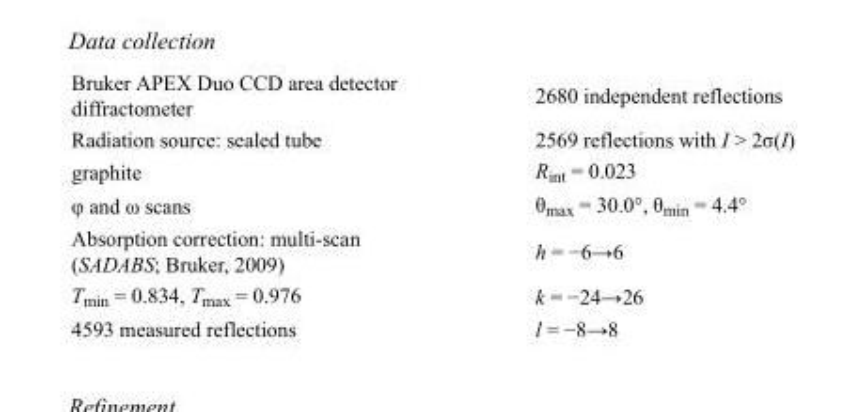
<table><tbody><tr><td>Bruker APEX Duo CCD area detector diffractometer</td><td>2680 independent reflections</td></tr><tr><td>Radiation source: sealed tube</td><td>2569 reflections with I &gt; 2σ(I)</td></tr><tr><td>graphite</td><td>R<sub>int</sub> = 0.023</td></tr><tr><td>φ and ω scans</td><td>θ<sub>max</sub> = 30.0°, θ<sub>min</sub> = 4.4°</td></tr><tr><td>Absorption correction: multi-scan (SADABS; Bruker, 2009)</td><td>h = −6→6</td></tr><tr><td>T<sub>min</sub> = 0.834, T<sub>max</sub> = 0.976</td><td>k = −24→26</td></tr><tr><td>4593 measured reflections</td><td>l = −8→8</td></tr></tbody></table>